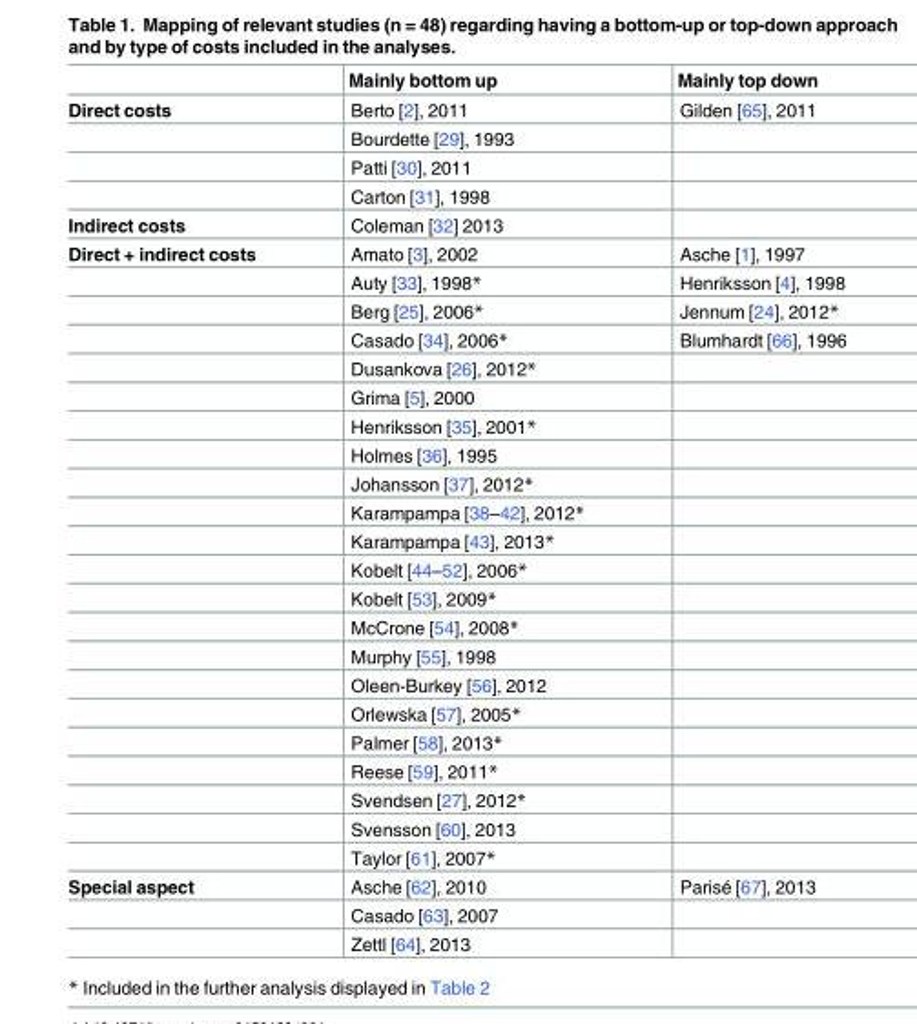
<table><thead><tr><td></td><td>Mainly bottom up</td><td>Mainly top down</td></tr></thead><tbody><tr><td rowspan="4">Direct costs</td><td>Berto [2], 2011</td><td>Gilden [65], 2011</td></tr><tr><td>Bourdette [29], 1993</td><td></td></tr><tr><td>Patti [30], 2011</td><td></td></tr><tr><td>Carton [31], 1998</td><td></td></tr><tr><td>Indirect costs</td><td>Coleman [32] 2013</td><td></td></tr><tr><td rowspan="22">Direct + indirect costs</td><td>Amato [3], 2002</td><td>Asche [1], 1997</td></tr><tr><td>Auty [33], 1998*</td><td>Henriksson [4], 1998</td></tr><tr><td>Berg [25], 2006*</td><td>Jennum [24], 2012*</td></tr><tr><td>Casado [34], 2006*</td><td>Blumhardt [66], 1996</td></tr><tr><td>Dusankova [26], 2012*</td><td></td></tr><tr><td>Grima [5], 2000</td><td></td></tr><tr><td>Henriksson [35], 2001*</td><td></td></tr><tr><td>Holmes [36], 1995</td><td></td></tr><tr><td>Johansson [37], 2012*</td><td></td></tr><tr><td>Karampampa [38–42], 2012*</td><td></td></tr><tr><td>Karampampa [43], 2013*</td><td></td></tr><tr><td>Kobelt [44–52], 2006*</td><td></td></tr><tr><td>Kobelt [53], 2009*</td><td></td></tr><tr><td>McCrone [54], 2008*</td><td></td></tr><tr><td>Murphy [55], 1998</td><td></td></tr><tr><td>Oleen-Burkey [56], 2012</td><td></td></tr><tr><td>Orlewska [57], 2005*</td><td></td></tr><tr><td>Palmer [58], 2013*</td><td></td></tr><tr><td>Reese [59], 2011*</td><td></td></tr><tr><td>Svendsen [27], 2012*</td><td></td></tr><tr><td>Svensson [60], 2013</td><td></td></tr><tr><td>Taylor [61], 2007*</td><td></td></tr><tr><td rowspan="3">Special aspect</td><td>Asche [62], 2010</td><td>Parisé [67], 2013</td></tr><tr><td>Casado [63], 2007</td><td></td></tr><tr><td>Zettl [64], 2013</td><td></td></tr></tbody></table>